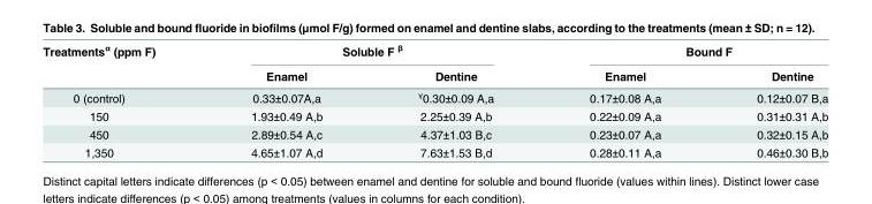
<table><thead><tr><td rowspan="2">Treatments<sup>α</sup> (ppm F)</td><td colspan="2">Soluble F <sup>β</sup></td><td colspan="2">Bound F</td></tr><tr><td>Enamel</td><td>Dentine</td><td>Enamel</td><td>Dentine</td></tr></thead><tbody><tr><td>0 (control)</td><td>0.33±0.07A,a</td><td><sup>γ</sup>0.30±0.09 A,a</td><td>0.17±0.08 A,a</td><td>0.12±0.07 B,a</td></tr><tr><td>150</td><td>1.93±0.49 A,b</td><td>2.25±0.39 A,b</td><td>0.22±0.09 A,a</td><td>0.31±0.31 A,b</td></tr><tr><td>450</td><td>2.89±0.54 A,c</td><td>4.37±1.03 B,c</td><td>0.23±0.07 A,a</td><td>0.32±0.15 A,b</td></tr><tr><td>1,350</td><td>4.65±1.07 A,d</td><td>7.63±1.53 B,d</td><td>0.28±0.11 A,a</td><td>0.46±0.30 B,b</td></tr></tbody></table>